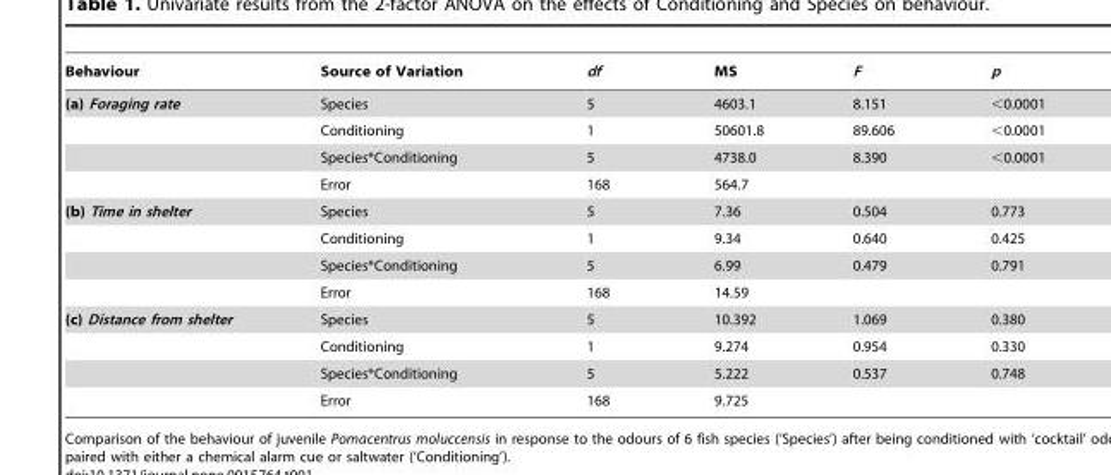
<table><thead><tr><td>Behaviour</td><td>Source of Variation</td><td>df</td><td>MS</td><td>F</td><td>p</td></tr></thead><tbody><tr><td rowspan="4">(a) Foraging rate</td><td>Species</td><td>5</td><td>4603.1</td><td>8.151</td><td>&lt;0.0001</td></tr><tr><td>Conditioning</td><td>1</td><td>50601.8</td><td>89.606</td><td>&lt;0.0001</td></tr><tr><td>Species*Conditioning</td><td>5</td><td>4738.0</td><td>8.390</td><td>&lt;0.0001</td></tr><tr><td>Error</td><td>168</td><td>564.7</td><td></td><td></td></tr><tr><td rowspan="4">(b) Time in shelter</td><td>Species</td><td>5</td><td>7.36</td><td>0.504</td><td>0.773</td></tr><tr><td>Conditioning</td><td>1</td><td>9.34</td><td>0.640</td><td>0.425</td></tr><tr><td>Species*Conditioning</td><td>5</td><td>6.99</td><td>0.479</td><td>0.791</td></tr><tr><td>Error</td><td>168</td><td>14.59</td><td></td><td></td></tr><tr><td rowspan="4">(c) Distance from shelter</td><td>Species</td><td>5</td><td>10.392</td><td>1.069</td><td>0.380</td></tr><tr><td>Conditioning</td><td>1</td><td>9.274</td><td>0.954</td><td>0.330</td></tr><tr><td>Species*Conditioning</td><td>5</td><td>5.222</td><td>0.537</td><td>0.748</td></tr><tr><td>Error</td><td>168</td><td>9.725</td><td></td><td></td></tr></tbody></table>